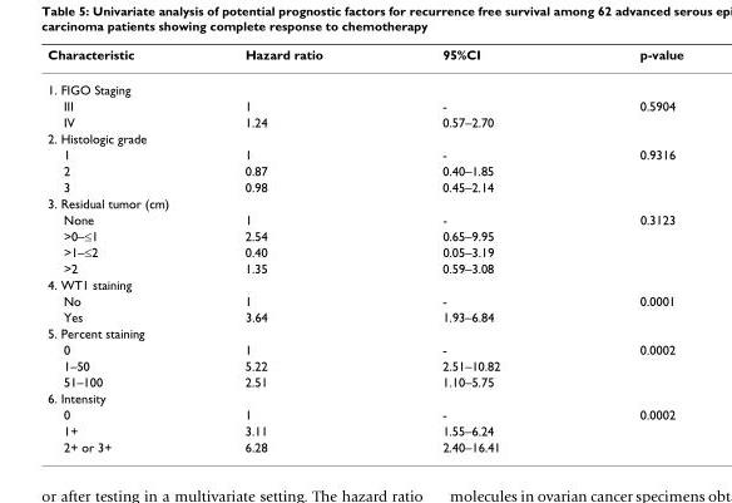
<table><thead><tr><td>Characteristic</td><td>Hazard ratio</td><td>95%CI</td><td>p-value</td></tr></thead><tbody><tr><td colspan="4">1. FIGO Staging</td></tr><tr><td>III</td><td>1</td><td>-</td><td>0.5904</td></tr><tr><td>IV</td><td>1.24</td><td>0.57–2.70</td><td></td></tr><tr><td colspan="4">2. Histologic grade</td></tr><tr><td>1</td><td>1</td><td>-</td><td>0.9316</td></tr><tr><td>2</td><td>0.87</td><td>0.40–1.85</td><td></td></tr><tr><td>3</td><td>0.98</td><td>0.45–2.14</td><td></td></tr><tr><td colspan="4">3. Residual tumor (cm)</td></tr><tr><td>None</td><td>1</td><td>-</td><td>0.3123</td></tr><tr><td>&gt;0–≤1</td><td>2.54</td><td>0.65–9.95</td><td></td></tr><tr><td>&gt;1–≤2</td><td>0.40</td><td>0.05–3.19</td><td></td></tr><tr><td>&gt;2</td><td>1.35</td><td>0.59–3.08</td><td></td></tr><tr><td colspan="4">4. WT1 staining</td></tr><tr><td>No</td><td>1</td><td>-</td><td>0.0001</td></tr><tr><td>Yes</td><td>3.64</td><td>1.93–6.84</td><td></td></tr><tr><td colspan="4">5. Percent staining</td></tr><tr><td>0</td><td>1</td><td>-</td><td>0.0002</td></tr><tr><td>1–50</td><td>5.22</td><td>2.51–10.82</td><td></td></tr><tr><td>51–100</td><td>2.51</td><td>1.10–5.75</td><td></td></tr><tr><td colspan="4">6. Intensity</td></tr><tr><td>0</td><td>1</td><td>-</td><td>0.0002</td></tr><tr><td>1+</td><td>3.11</td><td>1.55–6.24</td><td></td></tr><tr><td>2+ or 3+</td><td>6.28</td><td>2.40–16.41</td><td></td></tr></tbody></table>